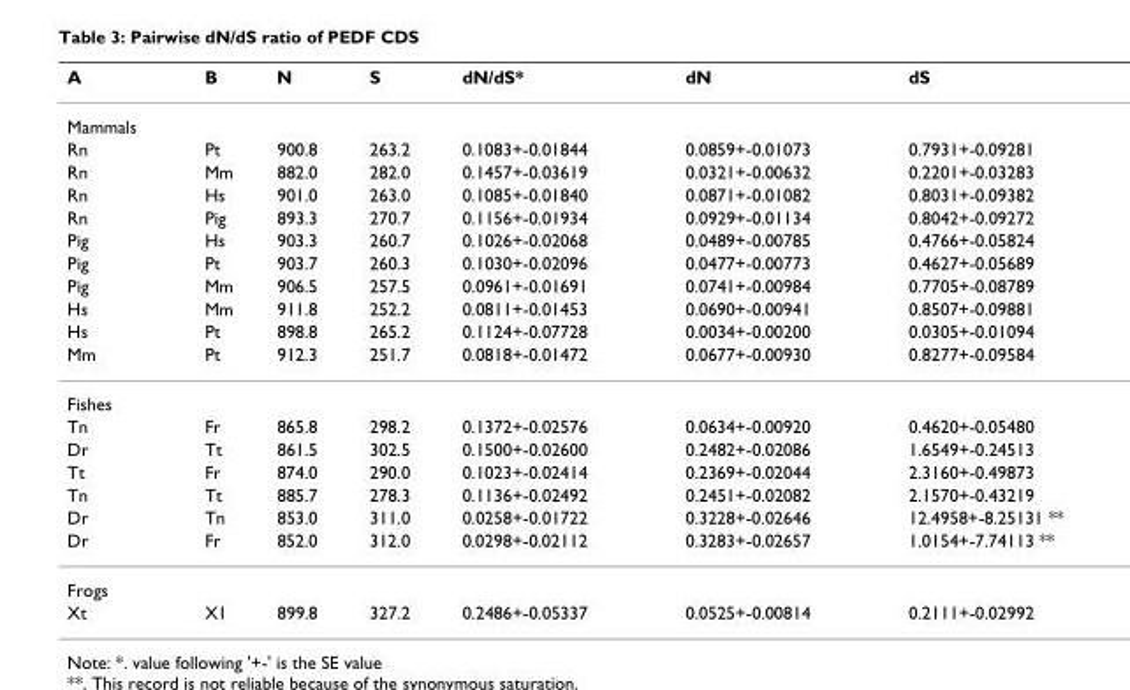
<table><thead><tr><td>A</td><td>B</td><td>N</td><td>S</td><td>dN/dS*</td><td>dN</td><td>dS</td></tr></thead><tbody><tr><td colspan="7">Mammals</td></tr><tr><td>Rn</td><td>Pt</td><td>900.8</td><td>263.2</td><td>0.1083+-0.01844</td><td>0.0859+-0.01073</td><td>0.7931+-0.09281</td></tr><tr><td>Rn</td><td>Mm</td><td>882.0</td><td>282.0</td><td>0.1457+-0.03619</td><td>0.0321+-0.00632</td><td>0.2201+-0.03283</td></tr><tr><td>Rn</td><td>Hs</td><td>901.0</td><td>263.0</td><td>0.1085+-0.01840</td><td>0.0871+-0.01082</td><td>0.8031+-0.09382</td></tr><tr><td>Rn</td><td>Pig</td><td>893.3</td><td>270.7</td><td>0.1156+-0.01934</td><td>0.0929+-0.01134</td><td>0.8042+-0.09272</td></tr><tr><td>Pig</td><td>Hs</td><td>903.3</td><td>260.7</td><td>0.1026+-0.02068</td><td>0.0489+-0.00785</td><td>0.4766+-0.05824</td></tr><tr><td>Pig</td><td>Pt</td><td>903.7</td><td>260.3</td><td>0.1030+-0.02096</td><td>0.0477+-0.00773</td><td>0.4627+-0.05689</td></tr><tr><td>Pig</td><td>Mm</td><td>906.5</td><td>257.5</td><td>0.0961+-0.01691</td><td>0.0741+-0.00984</td><td>0.7705+-0.08789</td></tr><tr><td>Hs</td><td>Mm</td><td>911.8</td><td>252.2</td><td>0.0811+-0.01453</td><td>0.0690+-0.00941</td><td>0.8507+-0.09881</td></tr><tr><td>Hs</td><td>Pt</td><td>898.8</td><td>265.2</td><td>0.1124+-0.07728</td><td>0.0034+-0.00200</td><td>0.0305+-0.01094</td></tr><tr><td>Mm</td><td>Pt</td><td>912.3</td><td>251.7</td><td>0.0818+-0.01472</td><td>0.0677+-0.00930</td><td>0.8277+-0.09584</td></tr><tr><td colspan="7">Fishes</td></tr><tr><td>Tn</td><td>Fr</td><td>865.8</td><td>298.2</td><td>0.1372+-0.02576</td><td>0.0634+-0.00920</td><td>0.4620+-0.05480</td></tr><tr><td>Dr</td><td>Tt</td><td>861.5</td><td>302.5</td><td>0.1500+-0.02600</td><td>0.2482+-0.02086</td><td>1.6549+-0.24513</td></tr><tr><td>Tt</td><td>Fr</td><td>874.0</td><td>290.0</td><td>0.1023+-0.02414</td><td>0.2369+-0.02044</td><td>2.3160+-0.49873</td></tr><tr><td>Tn</td><td>Tt</td><td>885.7</td><td>278.3</td><td>0.1136+-0.02492</td><td>0.2451+-0.02082</td><td>2.1570+-0.43219</td></tr><tr><td>Dr</td><td>Tn</td><td>853.0</td><td>311.0</td><td>0.0258+-0.01722</td><td>0.3228+-0.02646</td><td>12.4958+-8.25131 **</td></tr><tr><td>Dr</td><td>Fr</td><td>852.0</td><td>312.0</td><td>0.0298+-0.02112</td><td>0.3283+-0.02657</td><td>1.0154+-7.74113 **</td></tr><tr><td colspan="7">Frogs</td></tr><tr><td>Xt</td><td>X1</td><td>899.8</td><td>327.2</td><td>0.2486+-0.05337</td><td>0.0525+-0.00814</td><td>0.2111+-0.02992</td></tr></tbody></table>